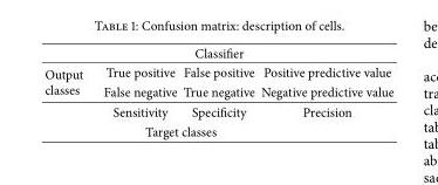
<table><tbody><tr><td colspan="4">Classifier</td></tr><tr><td rowspan="4">Output classes</td><td>True positive</td><td>False positive</td><td>Positive predictive value</td></tr><tr><td>False negative</td><td>True negative</td><td>Negative predictive value</td></tr><tr><td>Sensitivity</td><td>Specificity</td><td>Precision</td></tr><tr><td colspan="2">Target classes</td><td></td></tr></tbody></table>